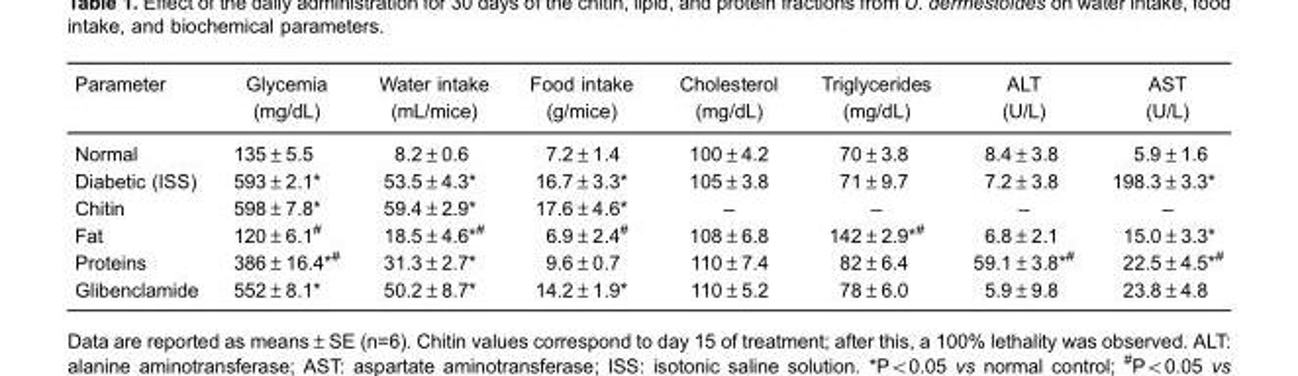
<table><thead><tr><td>Parameter</td><td>Glycemia (mg/dL)</td><td>Water intake (mL/mice)</td><td>Food intake (g/mice)</td><td>Cholesterol (mg/dL)</td><td>Triglycerides (mg/dL)</td><td>ALT (U/L)</td><td>AST (U/L)</td></tr></thead><tbody><tr><td>Normal</td><td>135±5.5</td><td>8.2±0.6</td><td>7.2±1.4</td><td>100±4.2</td><td>70±3.8</td><td>8.4±3.8</td><td>5.9±1.6</td></tr><tr><td>Diabetic (ISS)</td><td>593±2.1*</td><td>53.5±4.3*</td><td>16.7±3.3*</td><td>105±3.8</td><td>71±9.7</td><td>7.2±3.8</td><td>198.3±3.3*</td></tr><tr><td>Chitin</td><td>598±7.8*</td><td>59.4±2.9*</td><td>17.6±4.6*</td><td>–</td><td>–</td><td>–</td><td>–</td></tr><tr><td>Fat</td><td>120±6.1<sup>#</sup></td><td>18.5±4.6*<sup>#</sup></td><td>6.9±2.4<sup>#</sup></td><td>108±6.8</td><td>142±2.9*<sup>#</sup></td><td>6.8±2.1</td><td>15.0±3.3*</td></tr><tr><td>Proteins</td><td>386±16.4*<sup>#</sup></td><td>31.3±2.7*</td><td>9.6±0.7</td><td>110±7.4</td><td>82±6.4</td><td>59.1±3.8*<sup>#</sup></td><td>22.5±4.5*<sup>#</sup></td></tr><tr><td>Glibenclamide</td><td>552±8.1*</td><td>50.2±8.7*</td><td>14.2±1.9*</td><td>110±5.2</td><td>78±6.0</td><td>5.9±9.8</td><td>23.8±4.8</td></tr></tbody></table>